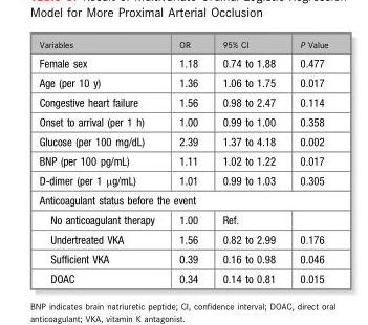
<table><thead><tr><td>Variables</td><td>OR</td><td>95% CI</td><td>P Value</td></tr></thead><tbody><tr><td>Female sex</td><td>1.18</td><td>0.74 to 1.88</td><td>0.477</td></tr><tr><td>Age (per 10 y)</td><td>1.36</td><td>1.06 to 1.75</td><td>0.017</td></tr><tr><td>Congestive heart failure</td><td>1.56</td><td>0.98 to 2.47</td><td>0.114</td></tr><tr><td>Onset to arrival (per 1 h)</td><td>1.00</td><td>0.99 to 1.00</td><td>0.358</td></tr><tr><td>Glucose (per 100 mg/dL)</td><td>2.39</td><td>1.37 to 4.18</td><td>0.002</td></tr><tr><td>BNP (per 100 pg/mL)</td><td>1.11</td><td>1.02 to 1.22</td><td>0.017</td></tr><tr><td>D-dimer (per 1 μg/mL)</td><td>1.01</td><td>0.99 to 1.03</td><td>0.305</td></tr><tr><td colspan="4">Anticoagulant status before the event</td></tr><tr><td>No anticoagulant therapy</td><td>1.00</td><td>Ref.</td><td></td></tr><tr><td>Undertreated VKA</td><td>1.56</td><td>0.82 to 2.99</td><td>0.176</td></tr><tr><td>Sufficient VKA</td><td>0.39</td><td>0.16 to 0.98</td><td>0.046</td></tr><tr><td>DOAC</td><td>0.34</td><td>0.14 to 0.81</td><td>0.015</td></tr></tbody></table>